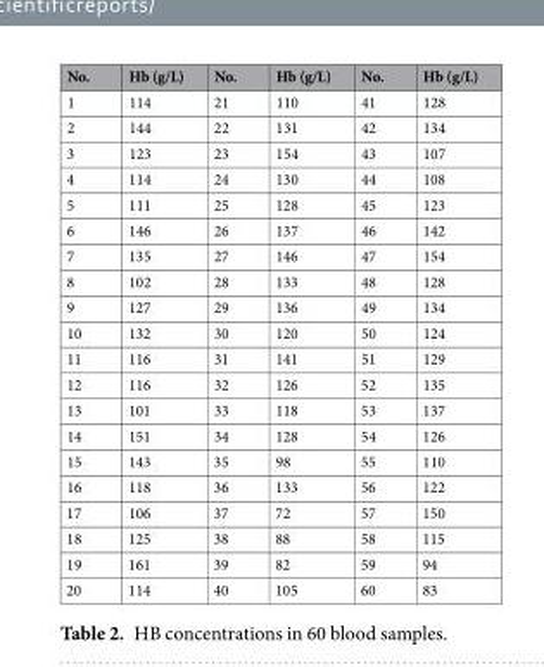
<table><thead><tr><td>No.</td><td>Hb (g/L)</td><td>No.</td><td>Hb (g/L)</td><td>No.</td><td>Hb (g/L)</td></tr></thead><tbody><tr><td>1</td><td>114</td><td>21</td><td>110</td><td>41</td><td>128</td></tr><tr><td>2</td><td>144</td><td>22</td><td>131</td><td>42</td><td>134</td></tr><tr><td>3</td><td>123</td><td>23</td><td>154</td><td>43</td><td>107</td></tr><tr><td>4</td><td>114</td><td>24</td><td>130</td><td>44</td><td>108</td></tr><tr><td>5</td><td>111</td><td>25</td><td>128</td><td>45</td><td>123</td></tr><tr><td>6</td><td>146</td><td>26</td><td>137</td><td>46</td><td>142</td></tr><tr><td>7</td><td>135</td><td>27</td><td>146</td><td>47</td><td>154</td></tr><tr><td>8</td><td>102</td><td>28</td><td>133</td><td>48</td><td>128</td></tr><tr><td>9</td><td>127</td><td>29</td><td>136</td><td>49</td><td>134</td></tr><tr><td>10</td><td>132</td><td>30</td><td>120</td><td>50</td><td>124</td></tr><tr><td>11</td><td>116</td><td>31</td><td>141</td><td>51</td><td>129</td></tr><tr><td>12</td><td>116</td><td>32</td><td>126</td><td>52</td><td>135</td></tr><tr><td>13</td><td>101</td><td>33</td><td>118</td><td>53</td><td>137</td></tr><tr><td>14</td><td>151</td><td>34</td><td>128</td><td>54</td><td>126</td></tr><tr><td>15</td><td>143</td><td>35</td><td>98</td><td>55</td><td>110</td></tr><tr><td>16</td><td>118</td><td>36</td><td>133</td><td>56</td><td>122</td></tr><tr><td>17</td><td>106</td><td>37</td><td>72</td><td>57</td><td>150</td></tr><tr><td>18</td><td>125</td><td>38</td><td>88</td><td>58</td><td>115</td></tr><tr><td>19</td><td>161</td><td>39</td><td>82</td><td>59</td><td>94</td></tr><tr><td>20</td><td>114</td><td>40</td><td>105</td><td>60</td><td>83</td></tr></tbody></table>